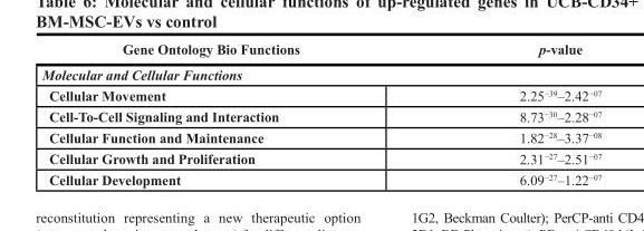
<table><thead><tr><td>Gene Ontology Bio Functions</td><td>p-value</td></tr></thead><tbody><tr><td colspan="2">Molecular and Cellular Functions</td></tr><tr><td>Cellular Movement</td><td>2.25<sup>−39</sup>–2.42<sup>−07</sup></td></tr><tr><td>Cell-To-Cell Signaling and Interaction</td><td>8.73<sup>−30</sup>–2.28<sup>−07</sup></td></tr><tr><td>Cellular Function and Maintenance</td><td>1.82<sup>−28</sup>–3.37<sup>−08</sup></td></tr><tr><td>Cellular Growth and Proliferation</td><td>2.31<sup>−27</sup>–2.51<sup>−07</sup></td></tr><tr><td>Cellular Development</td><td>6.09<sup>−27</sup>–1.22<sup>−07</sup></td></tr></tbody></table>